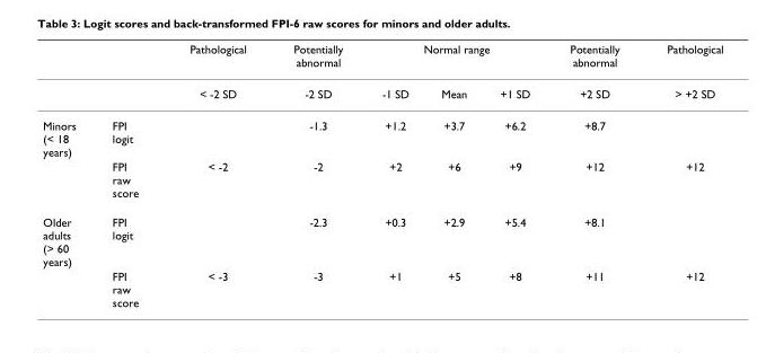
<table><thead><tr><td rowspan="2"></td><td rowspan="2"></td><td rowspan="2">Pathological &lt; -2 SD</td><td rowspan="2">Potentially abnormal -2 SD</td><td colspan="3">Normal range</td><td rowspan="2">Potentially abnormal +2 SD</td><td rowspan="2">Pathological &gt; +2 SD</td></tr><tr><td>-1 SD</td><td>Mean</td><td>+1 SD</td></tr></thead><tbody><tr><td rowspan="2">Minors (&lt; 18 years)</td><td>FPI logit</td><td></td><td>-1.3</td><td>+1.2</td><td>+3.7</td><td>+6.2</td><td>+8.7</td><td></td></tr><tr><td>FPI raw score</td><td>&lt; -2</td><td>-2</td><td>+2</td><td>+6</td><td>+9</td><td>+12</td><td>+12</td></tr><tr><td rowspan="2">Older adults (&gt; 60 years)</td><td>FPI logit</td><td></td><td>-2.3</td><td>+0.3</td><td>+2.9</td><td>+5.4</td><td>+8.1</td><td></td></tr><tr><td>FPI raw score</td><td>&lt; -3</td><td>-3</td><td>+1</td><td>+5</td><td>+8</td><td>+11</td><td>+12</td></tr></tbody></table>